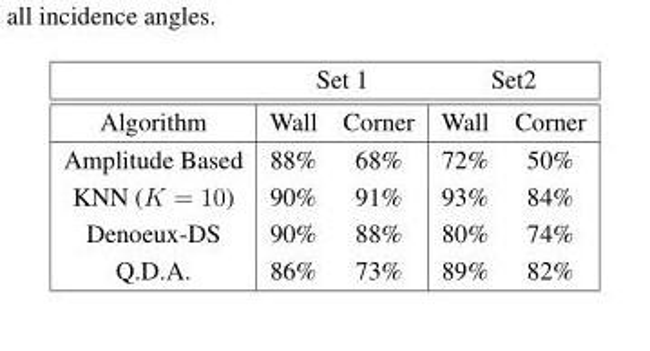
<table><thead><tr><td rowspan="2">Algorithm</td><td colspan="2">Set 1</td><td colspan="2">Set2</td></tr><tr><td>Wall</td><td>Corner</td><td>Wall</td><td>Corner</td></tr></thead><tbody><tr><td>Amplitude Based</td><td>88%</td><td>68%</td><td>72%</td><td>50%</td></tr><tr><td>KNN (K = 10)</td><td>90%</td><td>91%</td><td>93%</td><td>84%</td></tr><tr><td>Denoeux-DS</td><td>90%</td><td>88%</td><td>80%</td><td>74%</td></tr><tr><td>Q.D.A.</td><td>86%</td><td>73%</td><td>89%</td><td>82%</td></tr></tbody></table>